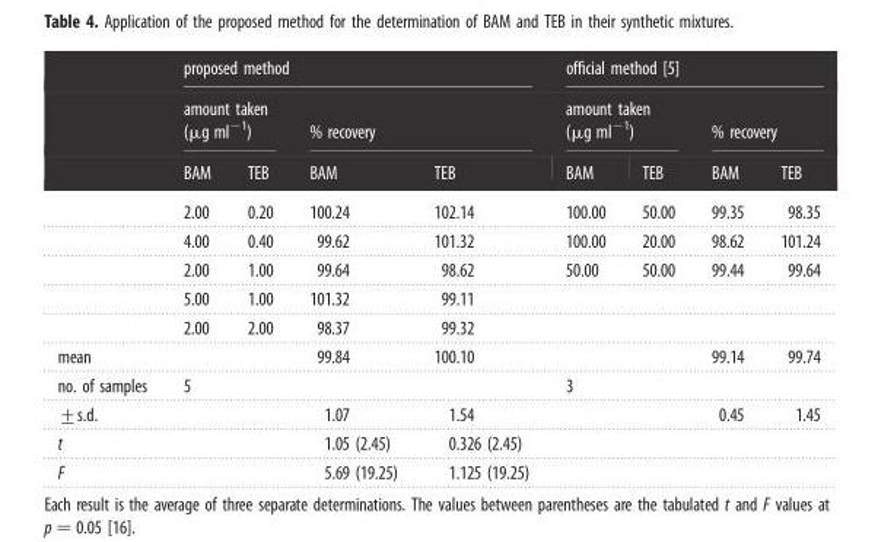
<table><thead><tr><td rowspan="3"></td><td colspan="4">proposed method</td><td colspan="4">official method [5]</td></tr><tr><td colspan="2">amount taken (μg ml<sup>−1</sup>)</td><td colspan="2">% recovery</td><td colspan="2">amount taken (μg ml<sup>−1</sup>)</td><td colspan="2">% recovery</td></tr><tr><td>BAM</td><td>TEB</td><td>BAM</td><td>TEB</td><td>BAM</td><td>TEB</td><td>BAM</td><td>TEB</td></tr></thead><tbody><tr><td></td><td>2.00</td><td>0.20</td><td>100.24</td><td>102.14</td><td>100.00</td><td>50.00</td><td>99.35</td><td>98.35</td></tr><tr><td></td><td>4.00</td><td>0.40</td><td>99.62</td><td>101.32</td><td>100.00</td><td>20.00</td><td>98.62</td><td>101.24</td></tr><tr><td></td><td>2.00</td><td>1.00</td><td>99.64</td><td>98.62</td><td>50.00</td><td>50.00</td><td>99.44</td><td>99.64</td></tr><tr><td></td><td>5.00</td><td>1.00</td><td>101.32</td><td>99.11</td><td></td><td></td><td></td><td></td></tr><tr><td></td><td>2.00</td><td>2.00</td><td>98.37</td><td>99.32</td><td></td><td></td><td></td><td></td></tr><tr><td>mean</td><td></td><td></td><td>99.84</td><td>100.10</td><td></td><td></td><td>99.14</td><td>99.74</td></tr><tr><td>no. of samples</td><td>5</td><td></td><td></td><td></td><td>3</td><td></td><td></td><td></td></tr><tr><td>+s.d.</td><td></td><td></td><td>1.07</td><td>1.54</td><td></td><td></td><td>0.45</td><td>1.45</td></tr><tr><td>t</td><td></td><td></td><td>1.05 (2.45)</td><td>0.326 (2.45)</td><td></td><td></td><td></td><td></td></tr><tr><td>F</td><td></td><td></td><td>5.69 (19.25)</td><td>1.125 (19.25)</td><td></td><td></td><td></td><td></td></tr></tbody></table>